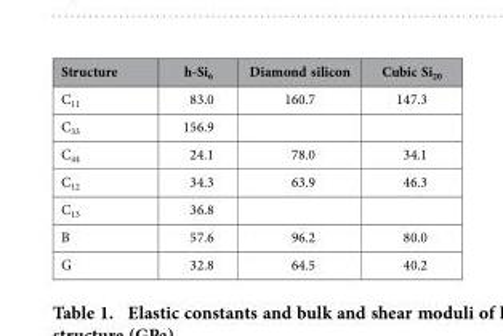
<table><thead><tr><td>Structure</td><td>h-Si<sub>6</sub></td><td>Diamond silicon</td><td>Cubic Si<sub>20</sub></td></tr></thead><tbody><tr><td>C<sub>11</sub></td><td>83.0</td><td>160.7</td><td>147.3</td></tr><tr><td>C<sub>33</sub></td><td>156.9</td><td></td><td></td></tr><tr><td>C<sub>44</sub></td><td>24.1</td><td>78.0</td><td>34.1</td></tr><tr><td>C<sub>12</sub></td><td>34.3</td><td>63.9</td><td>46.3</td></tr><tr><td>C<sub>13</sub></td><td>36.8</td><td></td><td></td></tr><tr><td>B</td><td>57.6</td><td>96.2</td><td>80.0</td></tr><tr><td>G</td><td>32.8</td><td>64.5</td><td>40.2</td></tr></tbody></table>